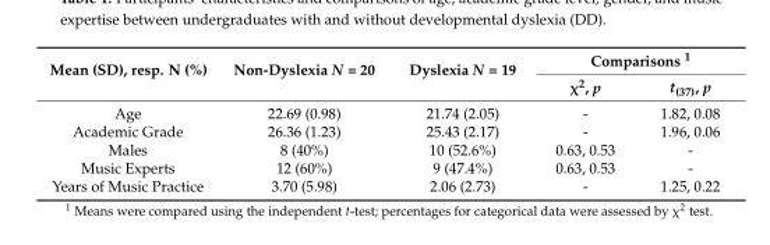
<table><thead><tr><td rowspan="2">Mean (SD), resp. N (%)</td><td rowspan="2">Non-Dyslexia N = 20</td><td rowspan="2">Dyslexia N = 19</td><td colspan="2">Comparisons <sup>1</sup></td></tr><tr><td>χ<sup>2</sup>, p</td><td>t<sub>(37)</sub>, p</td></tr></thead><tbody><tr><td>Age</td><td>22.69 (0.98)</td><td>21.74 (2.05)</td><td>-</td><td>1.82, 0.08</td></tr><tr><td>Academic Grade</td><td>26.36 (1.23)</td><td>25.43 (2.17)</td><td>-</td><td>1.96, 0.06</td></tr><tr><td>Males</td><td>8 (40%)</td><td>10 (52.6%)</td><td>0.63, 0.53</td><td>-</td></tr><tr><td>Music Experts</td><td>12 (60%)</td><td>9 (47.4%)</td><td>0.63, 0.53</td><td>-</td></tr><tr><td>Years of Music Practice</td><td>3.70 (5.98)</td><td>2.06 (2.73)</td><td>-</td><td>1.25, 0.22</td></tr></tbody></table>